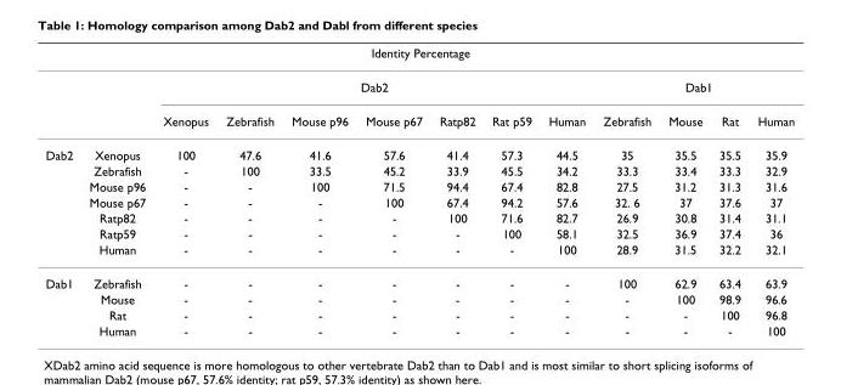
<table><thead><tr><td colspan="13">Identity Percentage</td></tr><tr><td rowspan="2"></td><td rowspan="2"></td><td colspan="7">Dab2</td><td colspan="4">Dab1</td></tr><tr><td>Xenopus</td><td>Zebrafish</td><td>Mouse p96</td><td>Mouse p67</td><td>Ratp82</td><td>Rat p59</td><td>Human</td><td>Zebrafish</td><td>Mouse</td><td>Rat</td><td>Human</td></tr></thead><tbody><tr><td rowspan="7">Dab2</td><td>Xenopus</td><td>100</td><td>47.6</td><td>41.6</td><td>57.6</td><td>41.4</td><td>57.3</td><td>44.5</td><td>35</td><td>35.5</td><td>35.5</td><td>35.9</td></tr><tr><td>Zebrafish</td><td>-</td><td>100</td><td>33.5</td><td>45.2</td><td>33.9</td><td>45.5</td><td>34.2</td><td>33.3</td><td>33.4</td><td>33.3</td><td>32.9</td></tr><tr><td>Mouse p96</td><td>-</td><td>-</td><td>100</td><td>71.5</td><td>94.4</td><td>67.4</td><td>82.8</td><td>27.5</td><td>31.2</td><td>31.3</td><td>31.6</td></tr><tr><td>Mouse p67</td><td>-</td><td>-</td><td>-</td><td>100</td><td>67.4</td><td>94.2</td><td>57.6</td><td>32. 6</td><td>37</td><td>37.6</td><td>37</td></tr><tr><td>Ratp82</td><td>-</td><td>-</td><td>-</td><td>-</td><td>100</td><td>71.6</td><td>82.7</td><td>26.9</td><td>30.8</td><td>31.4</td><td>31.1</td></tr><tr><td>Ratp59</td><td>-</td><td>-</td><td>-</td><td>-</td><td>-</td><td>100</td><td>58.1</td><td>32.5</td><td>36.9</td><td>37.4</td><td>36</td></tr><tr><td>Human</td><td>-</td><td>-</td><td>-</td><td>-</td><td>-</td><td>-</td><td>100</td><td>28.9</td><td>31.5</td><td>32.2</td><td>32.1</td></tr><tr><td rowspan="4">Dab1</td><td>Zebrafish</td><td>-</td><td>-</td><td>-</td><td>-</td><td>-</td><td>-</td><td>-</td><td>100</td><td>62.9</td><td>63.4</td><td>63.9</td></tr><tr><td>Mouse</td><td>-</td><td>-</td><td>-</td><td>-</td><td>-</td><td>-</td><td>-</td><td>-</td><td>100</td><td>98.9</td><td>96.6</td></tr><tr><td>Rat</td><td>-</td><td>-</td><td>-</td><td>-</td><td>-</td><td>-</td><td>-</td><td>-</td><td>-</td><td>100</td><td>96.8</td></tr><tr><td>Human</td><td>-</td><td>-</td><td>-</td><td>-</td><td>-</td><td>-</td><td>-</td><td>-</td><td>-</td><td>-</td><td>100</td></tr></tbody></table>